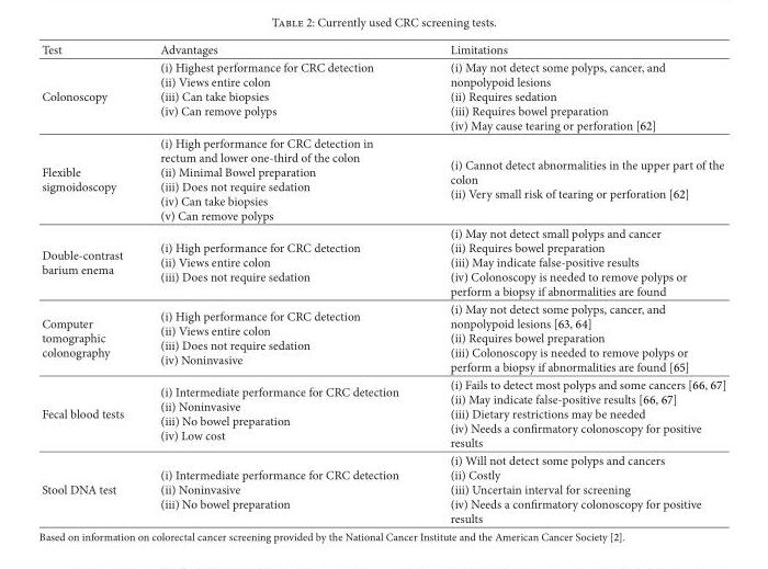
<table><thead><tr><td>Test</td><td>Advantages</td><td>Limitations</td></tr></thead><tbody><tr><td>Colonoscopy</td><td>(i) Highest performance for CRC detection (ii) Views entire colon (iii) Can take biopsies (iv) Can remove polyps</td><td>(i) May not detect some polyps, cancer, and nonpolypoid lesions (ii) Requires sedation (iii) Requires bowel preparation (iv) May cause tearing or perforation [62]</td></tr><tr><td>Flexible sigmoidoscopy</td><td>(i) High performance for CRC detection in rectum and lower one-third of the colon (ii) Minimal Bowel preparation (iii) Does not require sedation (iv) Can take biopsies (v) Can remove polyps</td><td>(i) Cannot detect abnormalities in the upper part of the colon (ii) Very small risk of tearing or perforation [62]</td></tr><tr><td>Double-contrast barium enema</td><td>(i) High performance for CRC detection (ii) Views entire colon (iii) Does not require sedation</td><td>(i) May not detect small polyps and cancer (ii) Requires bowel preparation (iii) May indicate false-positive results (iv) Colonoscopy is needed to remove polyps or perform a biopsy if abnormalities are found</td></tr><tr><td>Computer tomographic colonography</td><td>(i) High performance for CRC detection (ii) Views entire colon (iii) Does not require sedation (iv) Noninvasive</td><td>(i) May not detect some polyps, cancer, and nonpolypoid lesions [63, 64] (ii) Requires bowel preparation (iii) Colonoscopy is needed to remove polyps or perform a biopsy if abnormalities are found [65]</td></tr><tr><td>Fecal blood tests</td><td>(i) Intermediate performance for CRC detection (ii) Noninvasive (iii) No bowel preparation (iv) Low cost</td><td>(i) Fails to detect most polyps and some cancers [66, 67] (ii) May indicate false-positive results [66, 67] (iii) Dietary restrictions may be needed (iv) Needs a confirmatory colonoscopy for positive results</td></tr><tr><td>Stool DNA test</td><td>(i) Intermediate performance for CRC detection (ii) Noninvasive (iii) No bowel preparation</td><td>(i) Will not detect some polyps and cancers (ii) Costly (iii) Uncertain interval for screening (iv) Needs a confirmatory colonoscopy for positive results</td></tr></tbody></table>